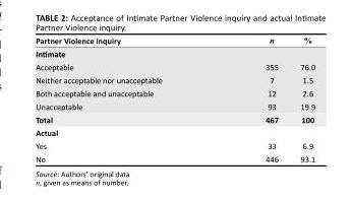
<table><thead><tr><td>Partner Violence inquiry</td><td>n</td><td>%</td></tr></thead><tbody><tr><td colspan="3">Intimate</td></tr><tr><td>Acceptable</td><td>355</td><td>76.0</td></tr><tr><td>Neither acceptable nor unacceptable</td><td>7</td><td>1.5</td></tr><tr><td>Both acceptable and unacceptable</td><td>12</td><td>2.6</td></tr><tr><td>Unacceptable</td><td>93</td><td>19.9</td></tr><tr><td>Total</td><td>467</td><td>100</td></tr><tr><td colspan="3">Actual</td></tr><tr><td>Yes</td><td>33</td><td>6.9</td></tr><tr><td>No</td><td>446</td><td>93.1</td></tr></tbody></table>